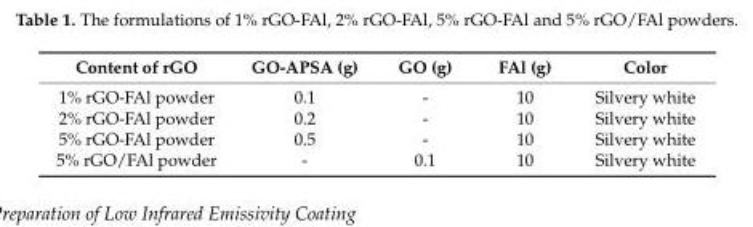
<table><thead><tr><td>Content of rGO</td><td>GO-APSA (g)</td><td>GO (g)</td><td>FAl (g)</td><td>Color</td></tr></thead><tbody><tr><td>1% rGO-FAl powder</td><td>0.1</td><td>-</td><td>10</td><td>Silvery white</td></tr><tr><td>2% rGO-FAl powder</td><td>0.2</td><td>-</td><td>10</td><td>Silvery white</td></tr><tr><td>5% rGO-FAl powder</td><td>0.5</td><td>-</td><td>10</td><td>Silvery white</td></tr><tr><td>5% rGO/FAl powder</td><td>-</td><td>0.1</td><td>10</td><td>Silvery white</td></tr></tbody></table>